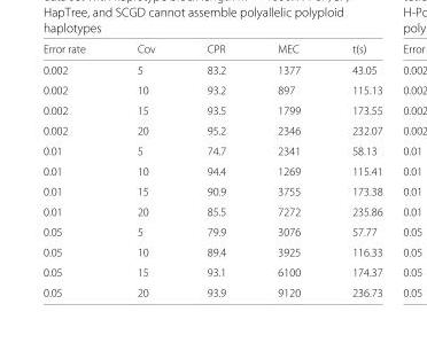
<table><thead><tr><td>Error rate</td><td>Cov</td><td>CPR</td><td>MEC</td><td>t(s)</td></tr></thead><tbody><tr><td>0.002</td><td>5</td><td>83.2</td><td>1377</td><td>43.05</td></tr><tr><td>0.002</td><td>10</td><td>93.2</td><td>897</td><td>115.13</td></tr><tr><td>0.002</td><td>15</td><td>93.5</td><td>1799</td><td>173.55</td></tr><tr><td>0.002</td><td>20</td><td>95.2</td><td>2346</td><td>232.07</td></tr><tr><td>0.01</td><td>5</td><td>74.7</td><td>2341</td><td>58.13</td></tr><tr><td>0.01</td><td>10</td><td>94.4</td><td>1269</td><td>115.41</td></tr><tr><td>0.01</td><td>15</td><td>90.9</td><td>3755</td><td>173.38</td></tr><tr><td>0.01</td><td>20</td><td>85.5</td><td>7272</td><td>235.86</td></tr><tr><td>0.05</td><td>5</td><td>79.9</td><td>3076</td><td>57.77</td></tr><tr><td>0.05</td><td>10</td><td>89.4</td><td>3925</td><td>116.33</td></tr><tr><td>0.05</td><td>15</td><td>93.1</td><td>6100</td><td>174.37</td></tr><tr><td>0.05</td><td>20</td><td>93.9</td><td>9120</td><td>236.73</td></tr></tbody></table>